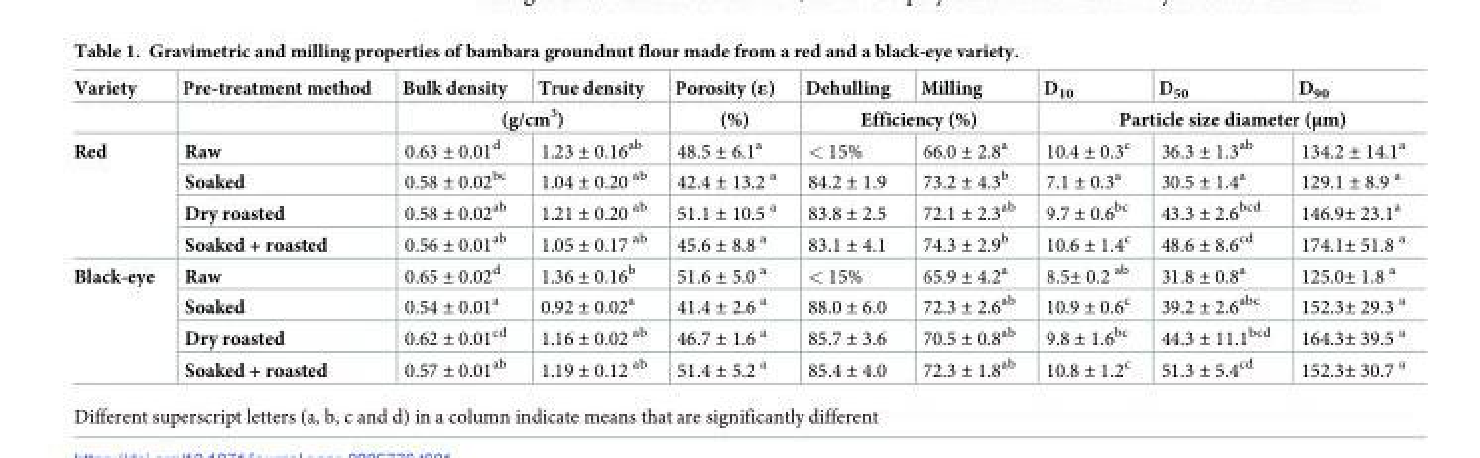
<table><thead><tr><td rowspan="2">Variety</td><td rowspan="2">Pre-treatment method</td><td>Bulk density</td><td>True density</td><td rowspan="2">Porosity (ε) (%)</td><td>Dehulling</td><td>Milling</td><td>D<sub>10</sub></td><td>D<sub>50</sub></td><td>D<sub>90</sub></td></tr><tr><td colspan="2">(g/cm<sup>3</sup>)</td><td colspan="2">Efficiency (%)</td><td colspan="3">Particle size diameter (μm)</td></tr></thead><tbody><tr><td rowspan="4">Red</td><td>Raw</td><td>0.63 ± 0.01<sup>d</sup></td><td>1.23 ± 0.16<sup>ab</sup></td><td>48.5 ± 6.1<sup>a</sup></td><td>&lt; 15%</td><td>66.0 ± 2.8<sup>a</sup></td><td>10.4 ± 0.3<sup>c</sup></td><td>36.3 ± 1.3<sup>ab</sup></td><td>134.2 ± 14.1<sup>a</sup></td></tr><tr><td>Soaked</td><td>0.58 ± 0.02<sup>bc</sup></td><td>1.04 ± 0.20 <sup>ab</sup></td><td>42.4 ± 13.2 <sup>a</sup></td><td>84.2 ± 1.9</td><td>73.2 ± 4.3<sup>b</sup></td><td>7.1 ± 0.3<sup>a</sup></td><td>30.5 ± 1.4<sup>a</sup></td><td>129.1 ± 8.9 <sup>a</sup></td></tr><tr><td>Dry roasted</td><td>0.58 ± 0.02<sup>ab</sup></td><td>1.21 ± 0.20 <sup>ab</sup></td><td>51.1 ± 10.5 <sup>a</sup></td><td>83.8 ± 2.5</td><td>72.1 ± 2.3<sup>ab</sup></td><td>9.7 ± 0.6<sup>bc</sup></td><td>43.3 ± 2.6<sup>bcd</sup></td><td>146.9± 23.1<sup>a</sup></td></tr><tr><td>Soaked + roasted</td><td>0.56 ± 0.01<sup>ab</sup></td><td>1.05 ± 0.17 <sup>ab</sup></td><td>45.6 ± 8.8 <sup>a</sup></td><td>83.1 ± 4.1</td><td>74.3 ± 2.9<sup>b</sup></td><td>10.6 ± 1.4<sup>c</sup></td><td>48.6 ± 8.6<sup>cd</sup></td><td>174.1± 51.8 <sup>a</sup></td></tr><tr><td rowspan="4">Black-eye</td><td>Raw</td><td>0.65 ± 0.02<sup>d</sup></td><td>1.36 ± 0.16<sup>b</sup></td><td>51.6 ± 5.0 <sup>a</sup></td><td>&lt; 15%</td><td>65.9 ± 4.2<sup>a</sup></td><td>8.5± 0.2 <sup>ab</sup></td><td>31.8 ± 0.8<sup>a</sup></td><td>125.0± 1.8 <sup>a</sup></td></tr><tr><td>Soaked</td><td>0.54 ± 0.01<sup>a</sup></td><td>0.92 ± 0.02<sup>a</sup></td><td>41.4 ± 2.6 <sup>a</sup></td><td>88.0 ± 6.0</td><td>72.3 ± 2.6<sup>ab</sup></td><td>10.9 ± 0.6<sup>c</sup></td><td>39.2 ± 2.6<sup>abc</sup></td><td>152.3± 29.3 <sup>a</sup></td></tr><tr><td>Dry roasted</td><td>0.62 ± 0.01<sup>cd</sup></td><td>1.16 ± 0.02 <sup>ab</sup></td><td>46.7 ± 1.6 <sup>a</sup></td><td>85.7 ± 3.6</td><td>70.5 ± 0.8<sup>ab</sup></td><td>9.8 ± 1.6<sup>bc</sup></td><td>44.3 ± 11.1<sup>bcd</sup></td><td>164.3± 39.5 <sup>a</sup></td></tr><tr><td>Soaked + roasted</td><td>0.57 ± 0.01<sup>ab</sup></td><td>1.19 ± 0.12 <sup>ab</sup></td><td>51.4 ± 5.2 <sup>a</sup></td><td>85.4 ± 4.0</td><td>72.3 ± 1.8<sup>ab</sup></td><td>10.8 ± 1.2<sup>c</sup></td><td>51.3 ± 5.4<sup>cd</sup></td><td>152.3± 30.7 <sup>a</sup></td></tr></tbody></table>